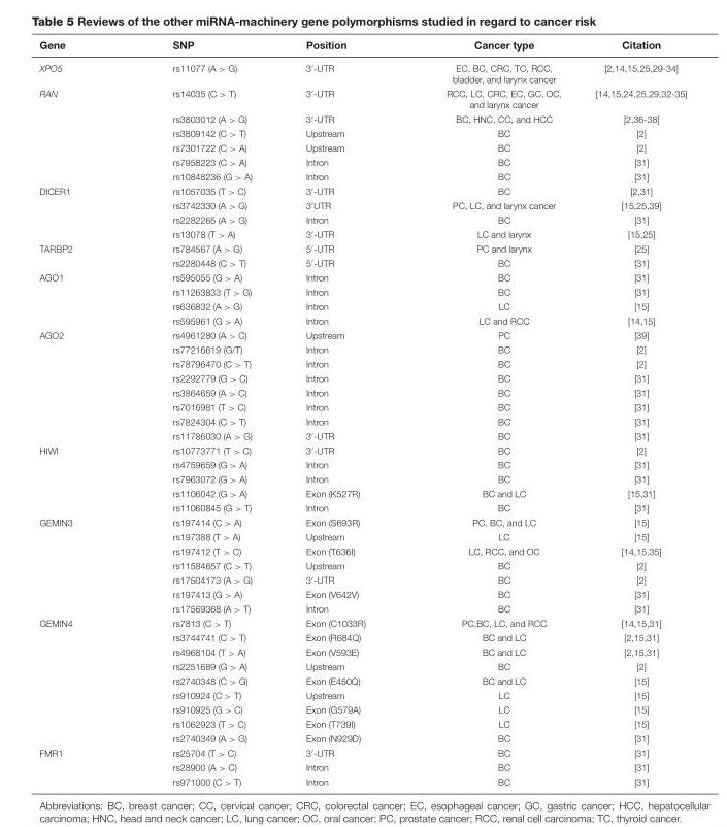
<table><thead><tr><td>Gene</td><td>SNP</td><td>Position</td><td>Cancer type</td><td>Citation</td></tr></thead><tbody><tr><td>XPO5</td><td>rs11077 (A &gt; G)</td><td>3′-UTR</td><td>EC, BC, CRC, TC, RCC, bladder, and larynx cancer</td><td>[2,14,15,25,29-34]</td></tr><tr><td rowspan="6">RAN</td><td>rs14035 (C &gt; T)</td><td>3′-UTR</td><td>RCC, LC, CRC, EC, GC, OC, and larynx cancer</td><td>[14,15,24,25,29,32-35]</td></tr><tr><td>rs3803012 (A &gt; G)</td><td>3′-UTR</td><td>BC, HNC, CC, and HCC</td><td>[2,36-38]</td></tr><tr><td>rs3809142 (C &gt; T)</td><td>Upstream</td><td>BC</td><td>[2]</td></tr><tr><td>rs7301722 (C &gt; A)</td><td>Upstream</td><td>BC</td><td>[2]</td></tr><tr><td>rs7958223 (C &gt; A)</td><td>Intron</td><td>BC</td><td>[31]</td></tr><tr><td>rs10848236 (G &gt; A)</td><td>Intron</td><td>BC</td><td>[31]</td></tr><tr><td rowspan="4">DICER1</td><td>rs1057035 (T &gt; C)</td><td>3′-UTR</td><td>BC</td><td>[2,31]</td></tr><tr><td>rs3742330 (A &gt; G)</td><td>3′UTR</td><td>PC, LC, and larynx cancer</td><td>[15,25,39]</td></tr><tr><td>rs2282265 (A &gt; G)</td><td>Intron</td><td>BC</td><td>[31]</td></tr><tr><td>rs13078 (T &gt; A)</td><td>3′-UTR</td><td>LC and larynx</td><td>[15,25]</td></tr><tr><td rowspan="2">TARBP2</td><td>rs784567 (A &gt; G)</td><td>5′-UTR</td><td>PC and larynx</td><td>[25]</td></tr><tr><td>rs2280448 (C &gt; T)</td><td>5′-UTR</td><td>BC</td><td>[31]</td></tr><tr><td rowspan="4">AGO1</td><td>rs595055 (G &gt; A)</td><td>Intron</td><td>BC</td><td>[31]</td></tr><tr><td>rs11263833 (T &gt; G)</td><td>Intron</td><td>BC</td><td>[31]</td></tr><tr><td>rs636832 (A &gt; G)</td><td>Intron</td><td>LC</td><td>[15]</td></tr><tr><td>rs595961 (G &gt; A)</td><td>Intron</td><td>LC and RCC</td><td>[14,15]</td></tr><tr><td rowspan="8">AGO2</td><td>rs4961280 (A &gt; C)</td><td>Upstream</td><td>PC</td><td>[39]</td></tr><tr><td>rs77216619 (G/T)</td><td>Intron</td><td>BC</td><td>[2]</td></tr><tr><td>rs78796470 (C &gt; T)</td><td>Intron</td><td>BC</td><td>[2]</td></tr><tr><td>rs2292779 (G &gt; C)</td><td>Intron</td><td>BC</td><td>[31]</td></tr><tr><td>rs3864659 (A &gt; C)</td><td>Intron</td><td>BC</td><td>[31]</td></tr><tr><td>rs7016981 (T &gt; C)</td><td>Intron</td><td>BC</td><td>[31]</td></tr><tr><td>rs7824304 (C &gt; T)</td><td>Intron</td><td>BC</td><td>[31]</td></tr><tr><td>rs11786030 (A &gt; G)</td><td>3′-UTR</td><td>BC</td><td>[31]</td></tr><tr><td rowspan="5">HIWI</td><td>rs10773771 (T &gt; C)</td><td>3′-UTR</td><td>BC</td><td>[2]</td></tr><tr><td>rs4759659 (G &gt; A)</td><td>Intron</td><td>BC</td><td>[31]</td></tr><tr><td>rs7963072 (G &gt; A)</td><td>Intron</td><td>BC</td><td>[31]</td></tr><tr><td>rs1106042 (G &gt; A)</td><td>Exon (K527R)</td><td>BC and LC</td><td>[15,31]</td></tr><tr><td>rs11060845 (G &gt; T)</td><td>Intron</td><td>BC</td><td>[31]</td></tr><tr><td rowspan="7">GEMIN3</td><td>rs197414 (C &gt; A)</td><td>Exon (S693R)</td><td>PC, BC, and LC</td><td>[15]</td></tr><tr><td>rs197388 (T &gt; A)</td><td>Upstream</td><td>LC</td><td>[15]</td></tr><tr><td>rs197412 (T &gt; C)</td><td>Exon (T636I)</td><td>LC, RCC, and OC</td><td>[14,15,35]</td></tr><tr><td>rs11584657 (C &gt; T)</td><td>Upstream</td><td>BC</td><td>[2]</td></tr><tr><td>rs17504173 (A &gt; G)</td><td>3′-UTR</td><td>BC</td><td>[2]</td></tr><tr><td>rs197413 (G &gt; A)</td><td>Exon (V642V)</td><td>BC</td><td>[31]</td></tr><tr><td>rs17569368 (A &gt; T)</td><td>Intron</td><td>BC</td><td>[31]</td></tr><tr><td rowspan="9">GEMIN4</td><td>rs7813 (C &gt; T)</td><td>Exon (C1033R)</td><td>PC,BC, LC, and RCC</td><td>[14,15,31]</td></tr><tr><td>rs3744741 (C &gt; T)</td><td>Exon (R684Q)</td><td>BC and LC</td><td>[2,15,31]</td></tr><tr><td>rs4968104 (T &gt; A)</td><td>Exon (V593E)</td><td>BC and LC</td><td>[2,15,31]</td></tr><tr><td>rs2251689 (G &gt; A)</td><td>Upstream</td><td>BC</td><td>[2]</td></tr><tr><td>rs2740348 (C &gt; G)</td><td>Exon (E450Q)</td><td>BC and LC</td><td>[15]</td></tr><tr><td>rs910924 (C &gt; T)</td><td>Upstream</td><td>LC</td><td>[15]</td></tr><tr><td>rs910925 (G &gt; C)</td><td>Exon (G579A)</td><td>LC</td><td>[15]</td></tr><tr><td>rs1062923 (T &gt; C)</td><td>Exon (T739I)</td><td>LC</td><td>[15]</td></tr><tr><td>rs2740349 (A &gt; G)</td><td>Exon (N929D)</td><td>BC</td><td>[31]</td></tr><tr><td rowspan="3">FMR1</td><td>rs25704 (T &gt; C)</td><td>3′-UTR</td><td>BC</td><td>[31]</td></tr><tr><td>rs28900 (A &gt; C)</td><td>Intron</td><td>BC</td><td>[31]</td></tr><tr><td>rs971000 (C &gt; T)</td><td>Intron</td><td>BC</td><td>[31]</td></tr></tbody></table>